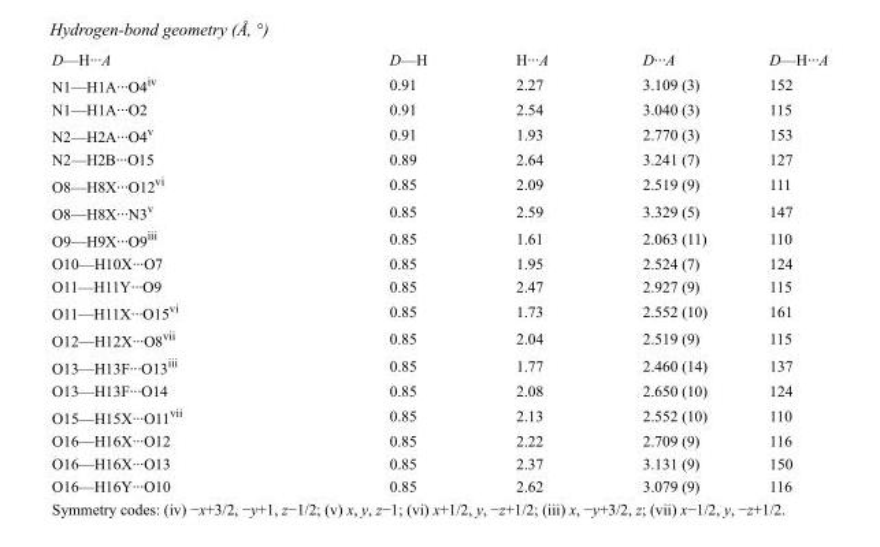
<table><tbody><tr><td>D—H···A</td><td>D—H</td><td>H···A</td><td>D···A</td><td>D—H···A</td></tr><tr><td>N1—H1A···O4<sup>iv</sup></td><td>0.91</td><td>2.27</td><td>3.109 (3)</td><td>152</td></tr><tr><td>N1—H1A···O2</td><td>0.91</td><td>2.54</td><td>3.040 (3)</td><td>115</td></tr><tr><td>N2—H2A···O4<sup>v</sup></td><td>0.91</td><td>1.93</td><td>2.770 (3)</td><td>153</td></tr><tr><td>N2—H2B···O15</td><td>0.89</td><td>2.64</td><td>3.241 (7)</td><td>127</td></tr><tr><td>O8—H8X···O12<sup>vi</sup></td><td>0.85</td><td>2.09</td><td>2.519 (9)</td><td>111</td></tr><tr><td>O8—H8X···N3<sup>v</sup></td><td>0.85</td><td>2.59</td><td>3.329 (5)</td><td>147</td></tr><tr><td>O9—H9X···O9<sup>iii</sup></td><td>0.85</td><td>1.61</td><td>2.063 (11)</td><td>110</td></tr><tr><td>O10—H10X···O7</td><td>0.85</td><td>1.95</td><td>2.524 (7)</td><td>124</td></tr><tr><td>O11—H11Y···O9</td><td>0.85</td><td>2.47</td><td>2.927 (9)</td><td>115</td></tr><tr><td>O11—H11X···O15<sup>vi</sup></td><td>0.85</td><td>1.73</td><td>2.552 (10)</td><td>161</td></tr><tr><td>O12—H12X···O8<sup>vii</sup></td><td>0.85</td><td>2.04</td><td>2.519 (9)</td><td>115</td></tr><tr><td>O13—H13F···O13<sup>iii</sup></td><td>0.85</td><td>1.77</td><td>2.460 (14)</td><td>137</td></tr><tr><td>O13—H13F···O14</td><td>0.85</td><td>2.08</td><td>2.650 (10)</td><td>124</td></tr><tr><td>O15—H15X···O11<sup>vii</sup></td><td>0.85</td><td>2.13</td><td>2.552 (10)</td><td>110</td></tr><tr><td>O16—H16X···O12</td><td>0.85</td><td>2.22</td><td>2.709 (9)</td><td>116</td></tr><tr><td>O16—H16X···O13</td><td>0.85</td><td>2.37</td><td>3.131 (9)</td><td>150</td></tr><tr><td>O16—H16Y···O10</td><td>0.85</td><td>2.62</td><td>3.079 (9)</td><td>116</td></tr></tbody></table>